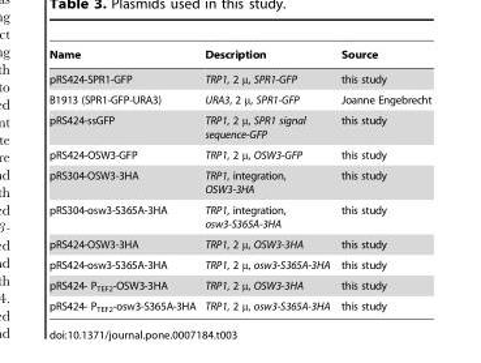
<table><thead><tr><td>Name</td><td>Description</td><td>Source</td></tr></thead><tbody><tr><td>pRS424-SPR1-GFP</td><td>TRP1, 2 µ, SPR1-GFP</td><td>this study</td></tr><tr><td>B1913 (SPR1-GFP-URA3)</td><td>URA3, 2 µ, SPR1-GFP</td><td>Joanne Engebrecht</td></tr><tr><td>pRS424-ssGFP</td><td>TRP1, 2 µ, SPR1 signal sequence-GFP</td><td>this study</td></tr><tr><td>pRS424-OSW3-GFP</td><td>TRP1, 2 µ, OSW3-GFP</td><td>this study</td></tr><tr><td>pRS304-OSW3-3HA</td><td>TRP1, integration, OSW3-3HA</td><td>this study</td></tr><tr><td>pRS304-osw3-S365A-3HA</td><td>TRP1, integration, osw3-S365A-3HA</td><td>this study</td></tr><tr><td>pRS424-OSW3-3HA</td><td>TRP1, 2 µ, OSW3-3HA</td><td>this study</td></tr><tr><td>pRS424-osw3-S365A-3HA</td><td>TRP1, 2 µ, osw3-S365A-3HA</td><td>this study</td></tr><tr><td>pRS424- P<sub>TEF2</sub>-OSW3-3HA</td><td>TRP1, 2 µ, OSW3-3HA</td><td>this study</td></tr><tr><td>pRS424- P<sub>TEF2</sub>-osw3-S365A-3HA</td><td>TRP1, 2 µ, osw3-S365A-3HA</td><td>this study</td></tr></tbody></table>